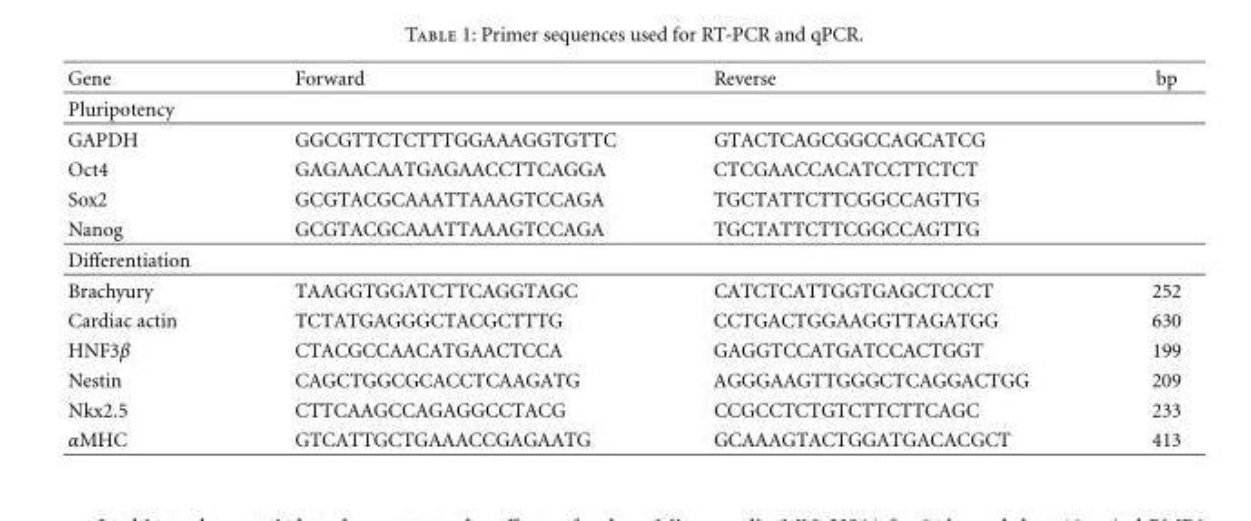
<table><thead><tr><td>Gene</td><td>Forward</td><td>Reverse</td><td>bp</td></tr></thead><tbody><tr><td colspan="4">Pluripotency</td></tr><tr><td>GAPDH</td><td>GGCGTTCTCTTTGGAAAGGTGTTC</td><td>GTACTCAGCGGCCAGCATCG</td><td></td></tr><tr><td>Oct4</td><td>GAGAACAATGAGAACCTTCAGGA</td><td>CTCGAACCACATCCTTCTCT</td><td></td></tr><tr><td>Sox2</td><td>GCGTACGCAAATTAAAGTCCAGA</td><td>TGCTATTCTTCGGCCAGTTG</td><td></td></tr><tr><td>Nanog</td><td>GCGTACGCAAATTAAAGTCCAGA</td><td>TGCTATTCTTCGGCCAGTTG</td><td></td></tr><tr><td colspan="4">Differentiation</td></tr><tr><td>Brachyury</td><td>TAAGGTGGATCTTCAGGTAGC</td><td>CATCTCATTGGTGAGCTCCCT</td><td>252</td></tr><tr><td>Cardiac actin</td><td>TCTATGAGGGCTACGCTTTG</td><td>CCTGACTGGAAGGTTAGATGG</td><td>630</td></tr><tr><td>HNF3β</td><td>CTACGCCAACATGAACTCCA</td><td>GAGGTCCATGATCCACTGGT</td><td>199</td></tr><tr><td>Nestin</td><td>CAGCTGGCGCACCTCAAGATG</td><td>AGGGAAGTTGGGCTCAGGACTGG</td><td>209</td></tr><tr><td>Nkx2.5</td><td>CTTCAAGCCAGAGGCCTACG</td><td>CCGCCTCTGTCTTCTTCAGC</td><td>233</td></tr><tr><td>αMHC</td><td>GTCATTGCTGAAACCGAGAATG</td><td>GCAAAGTACTGGATGACACGCT</td><td>413</td></tr></tbody></table>